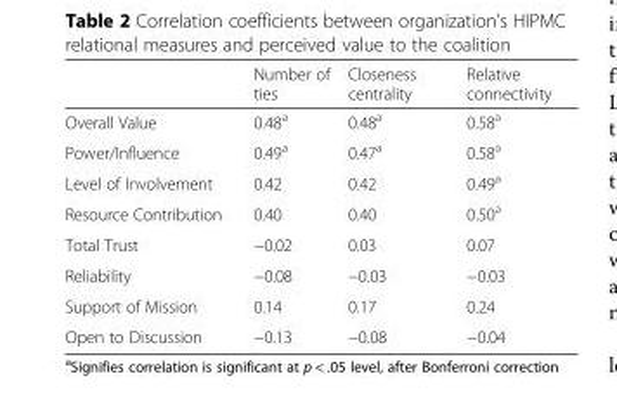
<table><thead><tr><td></td><td>Number of ties</td><td>Closeness centrality</td><td>Relative connectivity</td></tr></thead><tbody><tr><td>Overall Value</td><td>0.48<sup>a</sup></td><td>0.48<sup>a</sup></td><td>0.58<sup>a</sup></td></tr><tr><td>Power/Influence</td><td>0.49<sup>a</sup></td><td>0.47<sup>a</sup></td><td>0.58<sup>a</sup></td></tr><tr><td>Level of Involvement</td><td>0.42</td><td>0.42</td><td>0.49<sup>a</sup></td></tr><tr><td>Resource Contribution</td><td>0.40</td><td>0.40</td><td>0.50<sup>a</sup></td></tr><tr><td>Total Trust</td><td>−0.02</td><td>0.03</td><td>0.07</td></tr><tr><td>Reliability</td><td>−0.08</td><td>−0.03</td><td>−0.03</td></tr><tr><td>Support of Mission</td><td>0.14</td><td>0.17</td><td>0.24</td></tr><tr><td>Open to Discussion</td><td>−0.13</td><td>−0.08</td><td>−0.04</td></tr></tbody></table>